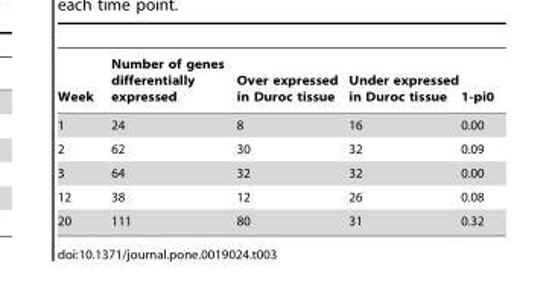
<table><thead><tr><td>Week</td><td>Number of genes differentially expressed</td><td>Over expressed in Duroc tissue</td><td>Under expressed in Duroc tissue</td><td>1-pi0</td></tr></thead><tbody><tr><td>1</td><td>24</td><td>8</td><td>16</td><td>0.00</td></tr><tr><td>2</td><td>62</td><td>30</td><td>32</td><td>0.09</td></tr><tr><td>3</td><td>64</td><td>32</td><td>32</td><td>0.00</td></tr><tr><td>12</td><td>38</td><td>12</td><td>26</td><td>0.08</td></tr><tr><td>20</td><td>111</td><td>80</td><td>31</td><td>0.32</td></tr></tbody></table>